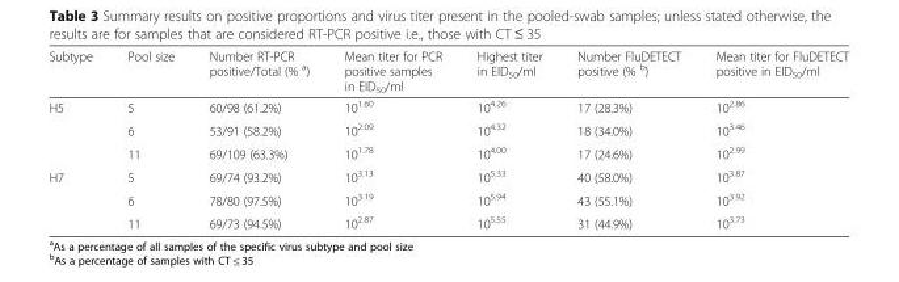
<table><thead><tr><td>Subtype</td><td>Pool size</td><td>Number RT-PCR positive/Total (% <sup>a</sup>)</td><td>Mean titer for PCR positive samples in EID<sub>50</sub>/ml</td><td>Highest titer in EID<sub>50</sub>/ml</td><td>Number FluDETECT positive (% <sup>b</sup>)</td><td>Mean titer for FluDETECT positive in EID<sub>50</sub>/ml</td></tr></thead><tbody><tr><td rowspan="3">H5</td><td>5</td><td>60/98 (61.2%)</td><td>10<sup>1.60</sup></td><td>10<sup>4.26</sup></td><td>17 (28.3%)</td><td>10<sup>2.86</sup></td></tr><tr><td>6</td><td>53/91 (58.2%)</td><td>10<sup>2.09</sup></td><td>10<sup>4.32</sup></td><td>18 (34.0%)</td><td>10<sup>3.46</sup></td></tr><tr><td>11</td><td>69/109 (63.3%)</td><td>10<sup>1.78</sup></td><td>10<sup>4.00</sup></td><td>17 (24.6%)</td><td>10<sup>2.99</sup></td></tr><tr><td rowspan="3">H7</td><td>5</td><td>69/74 (93.2%)</td><td>10<sup>3.13</sup></td><td>10<sup>5.33</sup></td><td>40 (58.0%)</td><td>10<sup>3.87</sup></td></tr><tr><td>6</td><td>78/80 (97.5%)</td><td>10<sup>3.19</sup></td><td>10<sup>5.94</sup></td><td>43 (55.1%)</td><td>10<sup>3.92</sup></td></tr><tr><td>11</td><td>69/73 (94.5%)</td><td>10<sup>2.87</sup></td><td>10<sup>5.55</sup></td><td>31 (44.9%)</td><td>10<sup>3.73</sup></td></tr></tbody></table>